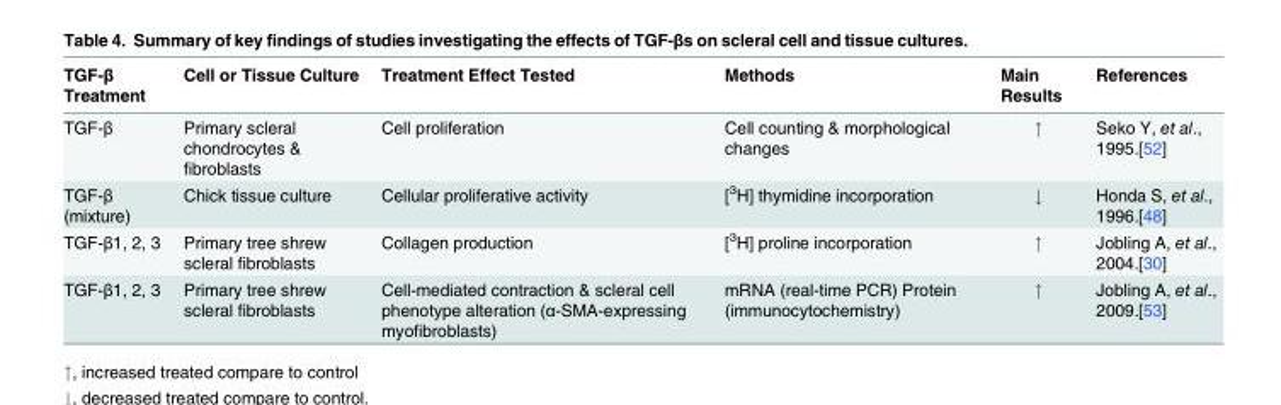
<table><thead><tr><td>TGF-β Treatment</td><td>Cell or Tissue Culture</td><td>Treatment Effect Tested</td><td>Methods</td><td>Main Results</td><td>References</td></tr></thead><tbody><tr><td>TGF-β</td><td>Primary scleral chondrocytes &amp; fibroblasts</td><td>Cell proliferation</td><td>Cell counting &amp; morphological changes</td><td>↑</td><td>Seko Y, et al., 1995.[52]</td></tr><tr><td>TGF-β (mixture)</td><td>Chick tissue culture</td><td>Cellular proliferative activity</td><td>[<sup>3</sup>H] thymidine incorporation</td><td>↓</td><td>Honda S, et al., 1996.[48]</td></tr><tr><td>TGF-β1, 2, 3</td><td>Primary tree shrew scleral fibroblasts</td><td>Collagen production</td><td>[<sup>3</sup>H] proline incorporation</td><td>↑</td><td>Jobling A, et al., 2004.[30]</td></tr><tr><td>TGF-β1, 2, 3</td><td>Primary tree shrew scleral fibroblasts</td><td>Cell-mediated contraction &amp; scleral cell phenotype alteration (α-SMA-expressing myofibroblasts)</td><td>mRNA (real-time PCR) Protein (immunocytochemistry)</td><td>↑</td><td>Jobling A, et al., 2009.[53]</td></tr></tbody></table>